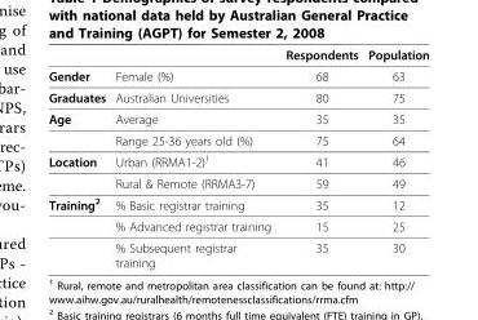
<table><thead><tr><td></td><td></td><td>Respondents</td><td>Population</td></tr></thead><tbody><tr><td>Gender</td><td>Female (%)</td><td>68</td><td>63</td></tr><tr><td>Graduates</td><td>Australian Universities</td><td>80</td><td>75</td></tr><tr><td rowspan="2">Age</td><td>Average</td><td>35</td><td>35</td></tr><tr><td>Range 25-36 years old (%)</td><td>75</td><td>64</td></tr><tr><td rowspan="2">Location</td><td>Urban (RRMA1-2)<sup>1</sup></td><td>41</td><td>46</td></tr><tr><td>Rural &amp; Remote (RRMA3-7)</td><td>59</td><td>49</td></tr><tr><td rowspan="3">Training<sup>2</sup></td><td>% Basic registrar training</td><td>35</td><td>12</td></tr><tr><td>% Advanced registrar training</td><td>15</td><td>25</td></tr><tr><td>% Subsequent registrar training</td><td>35</td><td>30</td></tr></tbody></table>